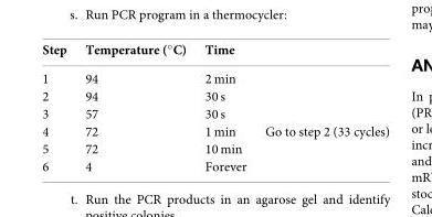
<table><thead><tr><td>Step</td><td>Temperature (◦C)</td><td>Time</td><td></td></tr></thead><tbody><tr><td>1</td><td>94</td><td>2 min</td><td></td></tr><tr><td>2</td><td>94</td><td>30 s</td><td></td></tr><tr><td>3</td><td>57</td><td>30 s</td><td></td></tr><tr><td>4</td><td>72</td><td>1 min</td><td>Go to step 2 (33 cycles)</td></tr><tr><td>5</td><td>72</td><td>10 min</td><td></td></tr><tr><td>6</td><td>4</td><td>Forever</td><td></td></tr></tbody></table>